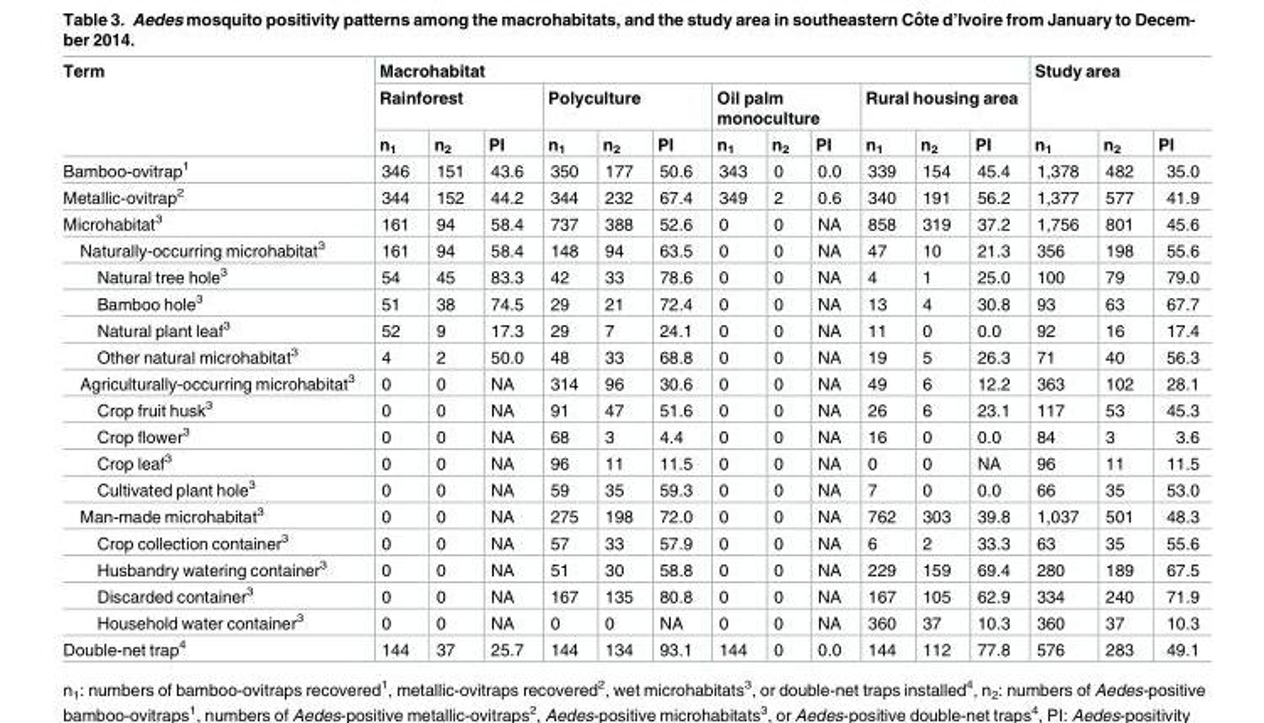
<table><thead><tr><td rowspan="3">Term</td><td colspan="12">Macrohabitat</td><td rowspan="2" colspan="3">Study area</td></tr><tr><td colspan="3">Rainforest</td><td colspan="3">Polyculture</td><td colspan="3">Oil palm monoculture</td><td colspan="3">Rural housing area</td></tr><tr><td>n<sub>1</sub></td><td>n<sub>2</sub></td><td>PI</td><td>n<sub>1</sub></td><td>n<sub>2</sub></td><td>PI</td><td>n<sub>1</sub></td><td>n<sub>2</sub></td><td>PI</td><td>n<sub>1</sub></td><td>n<sub>2</sub></td><td>PI</td><td>n<sub>1</sub></td><td>n<sub>2</sub></td><td>PI</td></tr></thead><tbody><tr><td>Bamboo-ovitrap<sup>1</sup></td><td>346</td><td>151</td><td>43.6</td><td>350</td><td>177</td><td>50.6</td><td>343</td><td>0</td><td>0.0</td><td>339</td><td>154</td><td>45.4</td><td>1,378</td><td>482</td><td>35.0</td></tr><tr><td>Metallic-ovitrap<sup>2</sup></td><td>344</td><td>152</td><td>44.2</td><td>344</td><td>232</td><td>67.4</td><td>349</td><td>2</td><td>0.6</td><td>340</td><td>191</td><td>56.2</td><td>1,377</td><td>577</td><td>41.9</td></tr><tr><td>Microhabitat<sup>3</sup></td><td>161</td><td>94</td><td>58.4</td><td>737</td><td>388</td><td>52.6</td><td>0</td><td>0</td><td>NA</td><td>858</td><td>319</td><td>37.2</td><td>1,756</td><td>801</td><td>45.6</td></tr><tr><td>Naturally-occurring microhabitat<sup>3</sup></td><td>161</td><td>94</td><td>58.4</td><td>148</td><td>94</td><td>63.5</td><td>0</td><td>0</td><td>NA</td><td>47</td><td>10</td><td>21.3</td><td>356</td><td>198</td><td>55.6</td></tr><tr><td>Natural tree hole<sup>3</sup></td><td>54</td><td>45</td><td>83.3</td><td>42</td><td>33</td><td>78.6</td><td>0</td><td>0</td><td>NA</td><td>4</td><td>1</td><td>25.0</td><td>100</td><td>79</td><td>79.0</td></tr><tr><td>Bamboo hole<sup>3</sup></td><td>51</td><td>38</td><td>74.5</td><td>29</td><td>21</td><td>72.4</td><td>0</td><td>0</td><td>NA</td><td>13</td><td>4</td><td>30.8</td><td>93</td><td>63</td><td>67.7</td></tr><tr><td>Natural plant leaf<sup>3</sup></td><td>52</td><td>9</td><td>17.3</td><td>29</td><td>7</td><td>24.1</td><td>0</td><td>0</td><td>NA</td><td>11</td><td>0</td><td>0.0</td><td>92</td><td>16</td><td>17.4</td></tr><tr><td>Other natural microhabitat<sup>3</sup></td><td>4</td><td>2</td><td>50.0</td><td>48</td><td>33</td><td>68.8</td><td>0</td><td>0</td><td>NA</td><td>19</td><td>5</td><td>26.3</td><td>71</td><td>40</td><td>56.3</td></tr><tr><td>Agriculturally-occurring microhabitat<sup>3</sup></td><td>0</td><td>0</td><td>NA</td><td>314</td><td>96</td><td>30.6</td><td>0</td><td>0</td><td>NA</td><td>49</td><td>6</td><td>12.2</td><td>363</td><td>102</td><td>28.1</td></tr><tr><td>Crop fruit husk<sup>3</sup></td><td>0</td><td>0</td><td>NA</td><td>91</td><td>47</td><td>51.6</td><td>0</td><td>0</td><td>NA</td><td>26</td><td>6</td><td>23.1</td><td>117</td><td>53</td><td>45.3</td></tr><tr><td>Crop flower<sup>3</sup></td><td>0</td><td>0</td><td>NA</td><td>68</td><td>3</td><td>4.4</td><td>0</td><td>0</td><td>NA</td><td>16</td><td>0</td><td>0.0</td><td>84</td><td>3</td><td>3.6</td></tr><tr><td>Crop leaf<sup>3</sup></td><td>0</td><td>0</td><td>NA</td><td>96</td><td>11</td><td>11.5</td><td>0</td><td>0</td><td>NA</td><td>0</td><td>0</td><td>NA</td><td>96</td><td>11</td><td>11.5</td></tr><tr><td>Cultivated plant hole<sup>3</sup></td><td>0</td><td>0</td><td>NA</td><td>59</td><td>35</td><td>59.3</td><td>0</td><td>0</td><td>NA</td><td>7</td><td>0</td><td>0.0</td><td>66</td><td>35</td><td>53.0</td></tr><tr><td>Man-made microhabitat<sup>3</sup></td><td>0</td><td>0</td><td>NA</td><td>275</td><td>198</td><td>72.0</td><td>0</td><td>0</td><td>NA</td><td>762</td><td>303</td><td>39.8</td><td>1,037</td><td>501</td><td>48.3</td></tr><tr><td>Crop collection container<sup>3</sup></td><td>0</td><td>0</td><td>NA</td><td>57</td><td>33</td><td>57.9</td><td>0</td><td>0</td><td>NA</td><td>6</td><td>2</td><td>33.3</td><td>63</td><td>35</td><td>55.6</td></tr><tr><td>Husbandry watering container<sup>3</sup></td><td>0</td><td>0</td><td>NA</td><td>51</td><td>30</td><td>58.8</td><td>0</td><td>0</td><td>NA</td><td>229</td><td>159</td><td>69.4</td><td>280</td><td>189</td><td>67.5</td></tr><tr><td>Discarded container<sup>3</sup></td><td>0</td><td>0</td><td>NA</td><td>167</td><td>135</td><td>80.8</td><td>0</td><td>0</td><td>NA</td><td>167</td><td>105</td><td>62.9</td><td>334</td><td>240</td><td>71.9</td></tr><tr><td>Household water container<sup>3</sup></td><td>0</td><td>0</td><td>NA</td><td>0</td><td>0</td><td>NA</td><td>0</td><td>0</td><td>NA</td><td>360</td><td>37</td><td>10.3</td><td>360</td><td>37</td><td>10.3</td></tr><tr><td>Double-net trap<sup>4</sup></td><td>144</td><td>37</td><td>25.7</td><td>144</td><td>134</td><td>93.1</td><td>144</td><td>0</td><td>0.0</td><td>144</td><td>112</td><td>77.8</td><td>576</td><td>283</td><td>49.1</td></tr></tbody></table>